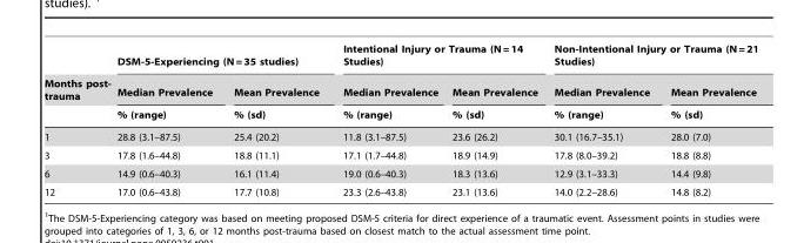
<table><thead><tr><td rowspan="3">Months post- trauma</td><td colspan="2">DSM-5-Experiencing (N = 35 studies)</td><td colspan="2">Intentional Injury or Trauma (N = 14 Studies)</td><td colspan="2">Non-Intentional Injury or Trauma (N = 21 Studies)</td></tr><tr><td rowspan="2">Median Prevalence % (range)</td><td rowspan="2">Mean Prevalence % (sd)</td><td rowspan="2">Median Prevalence % (range)</td><td rowspan="2">Mean Prevalence % (sd)</td><td rowspan="2">Median Prevalence % (range)</td><td rowspan="2">Mean Prevalence % (sd)</td></tr><tr></tr></thead><tbody><tr><td>1</td><td>28.8 (3.1–87.5)</td><td>25.4 (20.2)</td><td>11.8 (3.1–87.5)</td><td>23.6 (26.2)</td><td>30.1 (16.7–35.1)</td><td>28.0 (7.0)</td></tr><tr><td>3</td><td>17.8 (1.6–44.8)</td><td>18.8 (11.1)</td><td>17.1 (1.7–44.8)</td><td>18.9 (14.9)</td><td>17.8 (8.0–39.2)</td><td>18.8 (8.8)</td></tr><tr><td>6</td><td>14.9 (0.6–40.3)</td><td>16.1 (11.4)</td><td>19.0 (0.6–40.3)</td><td>18.3 (13.6)</td><td>12.9 (3.1–33.3)</td><td>14.4 (9.8)</td></tr><tr><td>12</td><td>17.0 (0.6–43.8)</td><td>17.7 (10.8)</td><td>23.3 (2.6–43.8)</td><td>23.1 (13.6)</td><td>14.0 (2.2–28.6)</td><td>14.8 (8.2)</td></tr></tbody></table>